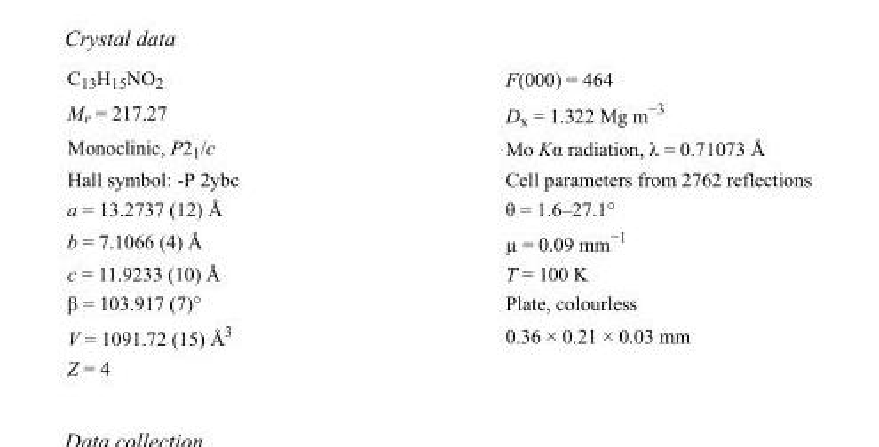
<table><tbody><tr><td>C<sub>13</sub>H<sub>15</sub>NO<sub>2</sub></td><td>F(000) = 464</td></tr><tr><td>M<sub>r</sub> = 217.27</td><td>D<sub>x</sub> = 1.322 Mg m<sup>−3</sup></td></tr><tr><td>Monoclinic, P2<sub>1</sub>/c</td><td>Mo Kα radiation, λ = 0.71073 Å</td></tr><tr><td>Hall symbol: -P 2ybc</td><td>Cell parameters from 2762 reflections</td></tr><tr><td>a = 13.2737 (12) Å</td><td>θ = 1.6–27.1°</td></tr><tr><td>b = 7.1066 (4) Å</td><td>µ = 0.09 mm<sup>−1</sup></td></tr><tr><td>c = 11.9233 (10) Å</td><td>T = 100 K</td></tr><tr><td>β = 103.917 (7)°</td><td>Plate, colourless</td></tr><tr><td>V = 1091.72 (15) Å<sup>3</sup></td><td>0.36 × 0.21 × 0.03 mm</td></tr><tr><td>Z = 4</td><td></td></tr></tbody></table>